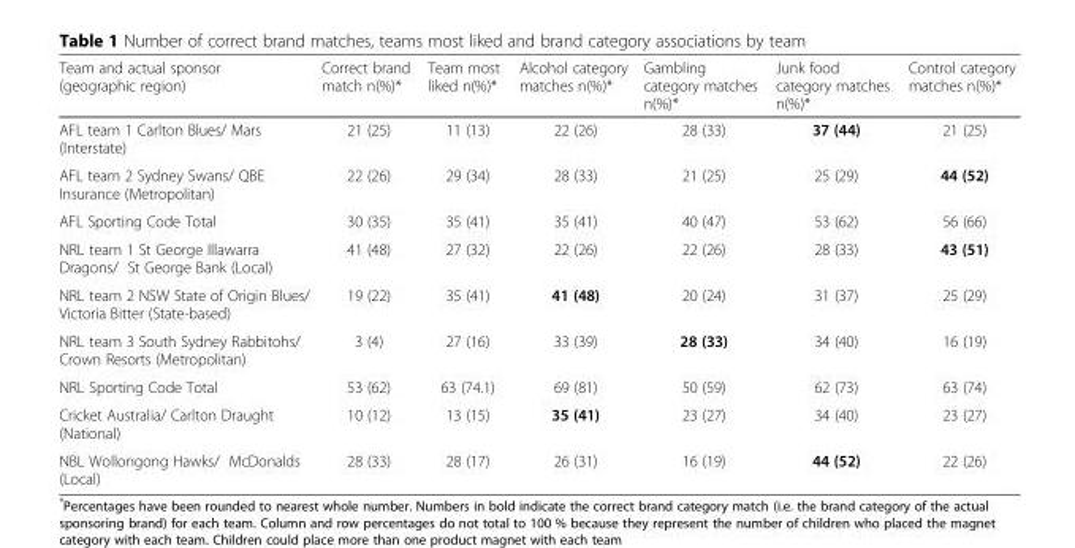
<table><thead><tr><td>Team and actual sponsor (geographic region)</td><td>Correct brand match n(%)*</td><td>Team most liked n(%)*</td><td>Alcohol category matches n(%)*</td><td>Gambling category matches n(%)*</td><td>Junk food category matches n(%)*</td><td>Control category matches n(%)*</td></tr></thead><tbody><tr><td>AFL team 1 Carlton Blues/ Mars (Interstate)</td><td>21 (25)</td><td>11 (13)</td><td>22 (26)</td><td>28 (33)</td><td>37 (44)</td><td>21 (25)</td></tr><tr><td>AFL team 2 Sydney Swans/ QBE Insurance (Metropolitan)</td><td>22 (26)</td><td>29 (34)</td><td>28 (33)</td><td>21 (25)</td><td>25 (29)</td><td>44 (52)</td></tr><tr><td>AFL Sporting Code Total</td><td>30 (35)</td><td>35 (41)</td><td>35 (41)</td><td>40 (47)</td><td>53 (62)</td><td>56 (66)</td></tr><tr><td>NRL team 1 St George Illawarra Dragons/ St George Bank (Local)</td><td>41 (48)</td><td>27 (32)</td><td>22 (26)</td><td>22 (26)</td><td>28 (33)</td><td>43 (51)</td></tr><tr><td>NRL team 2 NSW State of Origin Blues/ Victoria Bitter (State-based)</td><td>19 (22)</td><td>35 (41)</td><td>41 (48)</td><td>20 (24)</td><td>31 (37)</td><td>25 (29)</td></tr><tr><td>NRL team 3 South Sydney Rabbitohs/ Crown Resorts (Metropolitan)</td><td>3 (4)</td><td>27 (16)</td><td>33 (39)</td><td>28 (33)</td><td>34 (40)</td><td>16 (19)</td></tr><tr><td>NRL Sporting Code Total</td><td>53 (62)</td><td>63 (74.1)</td><td>69 (81)</td><td>50 (59)</td><td>62 (73)</td><td>63 (74)</td></tr><tr><td>Cricket Australia/ Carlton Draught (National)</td><td>10 (12)</td><td>13 (15)</td><td>35 (41)</td><td>23 (27)</td><td>34 (40)</td><td>23 (27)</td></tr><tr><td>NBL Wollongong Hawks/ McDonalds (Local)</td><td>28 (33)</td><td>28 (17)</td><td>26 (31)</td><td>16 (19)</td><td>44 (52)</td><td>22 (26)</td></tr></tbody></table>